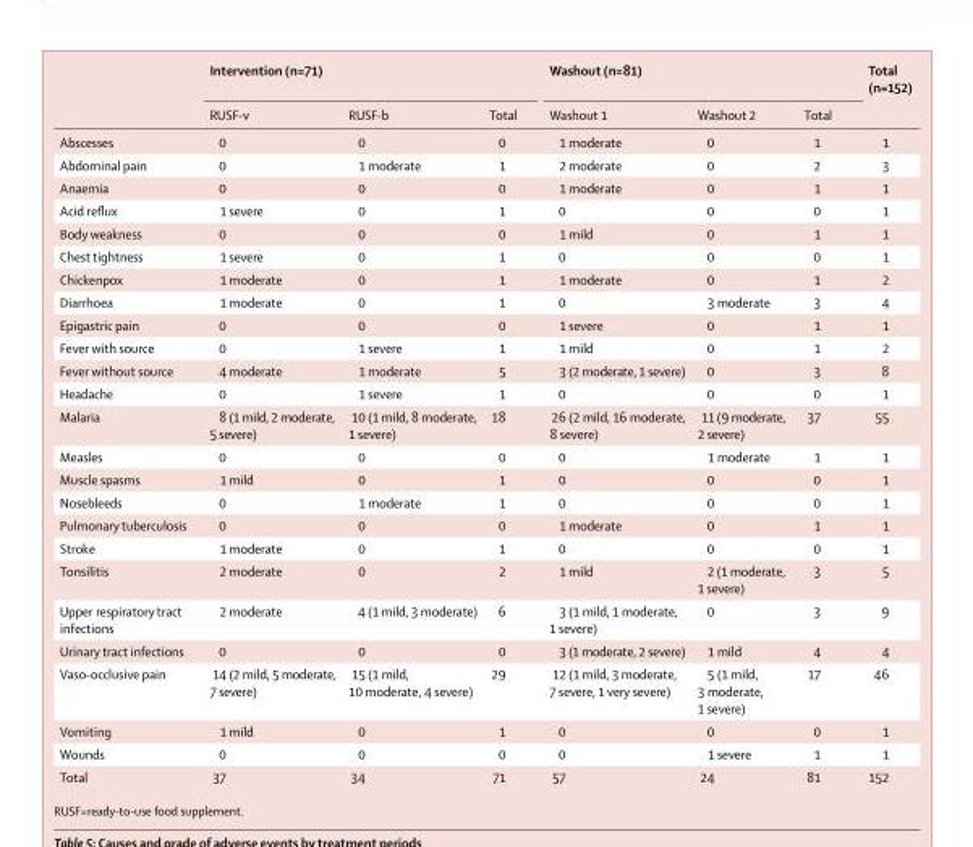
<table><thead><tr><td rowspan="2"></td><td colspan="3">Intervention (n=71)</td><td colspan="3">Washout (n=81)</td><td rowspan="2">Total (n=152)</td></tr><tr><td>RUSF-v</td><td>RUSF-b</td><td>Total</td><td>Washout 1</td><td>Washout 2</td><td>Total</td></tr></thead><tbody><tr><td>Abscesses</td><td>0</td><td>0</td><td>0</td><td>1 moderate</td><td>0</td><td>1</td><td>1</td></tr><tr><td>Abdominal pain</td><td>0</td><td>1 moderate</td><td>1</td><td>2 moderate</td><td>0</td><td>2</td><td>3</td></tr><tr><td>Anaemia</td><td>0</td><td>0</td><td>0</td><td>1 moderate</td><td>0</td><td>1</td><td>1</td></tr><tr><td>Acid reflux</td><td>1 severe</td><td>0</td><td>1</td><td>0</td><td>0</td><td>0</td><td>1</td></tr><tr><td>Body weakness</td><td>0</td><td>0</td><td>0</td><td>1 mild</td><td>0</td><td>1</td><td>1</td></tr><tr><td>Chest tightness</td><td>1 severe</td><td>0</td><td>1</td><td>0</td><td>0</td><td>0</td><td>1</td></tr><tr><td>Chickenpox</td><td>1 moderate</td><td>0</td><td>1</td><td>1 moderate</td><td>0</td><td>1</td><td>2</td></tr><tr><td>Diarrhoea</td><td>1 moderate</td><td>0</td><td>1</td><td>0</td><td>3 moderate</td><td>3</td><td>4</td></tr><tr><td>Epigastric pain</td><td>0</td><td>0</td><td>0</td><td>1 severe</td><td>0</td><td>1</td><td>1</td></tr><tr><td>Fever with source</td><td>0</td><td>1 severe</td><td>1</td><td>1 mild</td><td>0</td><td>1</td><td>2</td></tr><tr><td>Fever without source</td><td>4 moderate</td><td>1 moderate</td><td>5</td><td>3 (2 moderate, 1 severe)</td><td>0</td><td>3</td><td>8</td></tr><tr><td>Headache</td><td>0</td><td>1 severe</td><td>1</td><td>0</td><td>0</td><td>0</td><td>1</td></tr><tr><td>Malaria</td><td>8 (1 mild, 2 moderate, 5 severe)</td><td>10 (1 mild, 8 moderate, 1 severe)</td><td>18</td><td>26 (2 mild, 16 moderate, 8 severe)</td><td>11 (9 moderate, 2 severe)</td><td>37</td><td>55</td></tr><tr><td>Measles</td><td>0</td><td>0</td><td>0</td><td>0</td><td>1 moderate</td><td>1</td><td>1</td></tr><tr><td>Muscle spasms</td><td>1 mild</td><td>0</td><td>1</td><td>0</td><td>0</td><td>0</td><td>1</td></tr><tr><td>Nosebleeds</td><td>0</td><td>1 moderate</td><td>1</td><td>0</td><td>0</td><td>0</td><td>1</td></tr><tr><td>Pulmonary tuberculosis</td><td>0</td><td>0</td><td>0</td><td>1 moderate</td><td>0</td><td>1</td><td>1</td></tr><tr><td>Stroke</td><td>1 moderate</td><td>0</td><td>1</td><td>0</td><td>0</td><td>0</td><td>1</td></tr><tr><td>Tonsilitis</td><td>2 moderate</td><td>0</td><td>2</td><td>1 mild</td><td>2 (1 moderate, 1 severe)</td><td>3</td><td>5</td></tr><tr><td>Upper respiratory tract infections</td><td>2 moderate</td><td>4 (1 mild, 3 moderate)</td><td>6</td><td>3 (1 mild, 1 moderate, 1 severe)</td><td>0</td><td>3</td><td>9</td></tr><tr><td>Urinary tract infections</td><td>0</td><td>0</td><td>0</td><td>3 (1 moderate, 2 severe)</td><td>1 mild</td><td>4</td><td>4</td></tr><tr><td>Vaso-occlusive pain</td><td>14 (2 mild, 5 moderate, 7 severe)</td><td>15 (1 mild, 10 moderate, 4 severe)</td><td>29</td><td>12 (1 mild, 3 moderate, 7 severe, 1 very severe)</td><td>5 (1 mild, 3 moderate, 1 severe)</td><td>17</td><td>46</td></tr><tr><td>Vomiting</td><td>1 mild</td><td>0</td><td>1</td><td>0</td><td>0</td><td>0</td><td>1</td></tr><tr><td>Wounds</td><td>0</td><td>0</td><td>0</td><td>0</td><td>1 severe</td><td>1</td><td>1</td></tr><tr><td>Total</td><td>37</td><td>34</td><td>71</td><td>57</td><td>24</td><td>81</td><td>152</td></tr></tbody></table>